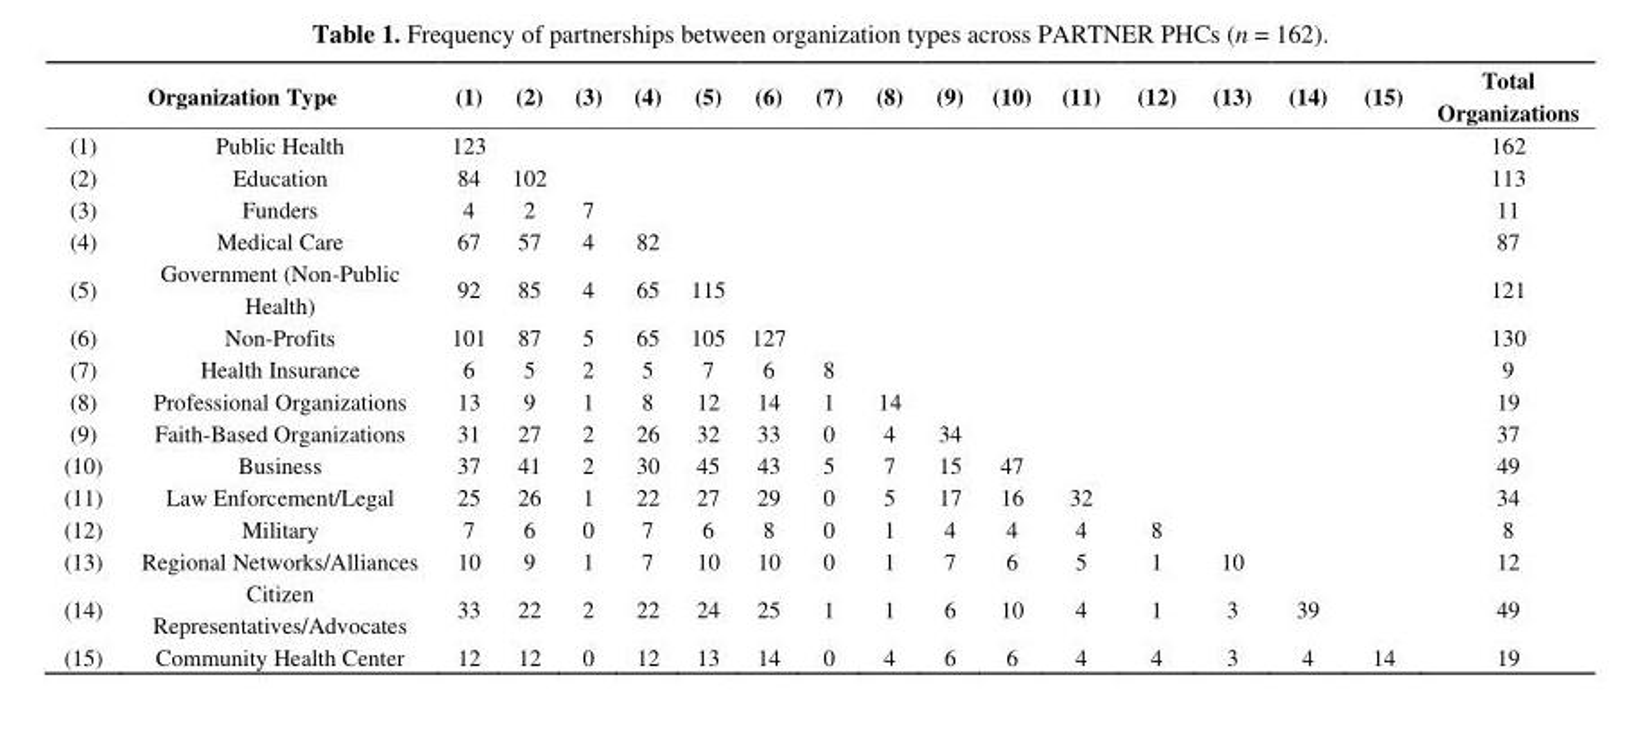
<table><thead><tr><td colspan="2">Organization Type</td><td rowspan="2">(1) 123</td><td rowspan="2">(2)</td><td rowspan="2">(3)</td><td rowspan="2">(4)</td><td rowspan="2">(5)</td><td rowspan="2">(6)</td><td rowspan="2">(7)</td><td rowspan="2">(8)</td><td rowspan="2">(9)</td><td rowspan="2">(10)</td><td rowspan="2">(11)</td><td rowspan="2">(12)</td><td rowspan="2">(13)</td><td rowspan="2">(14)</td><td rowspan="2">(15)</td><td rowspan="2">Total Organizations 162</td></tr><tr><td>(1)</td><td>Public Health</td></tr></thead><tbody><tr><td>(2)</td><td>Education</td><td>84</td><td>102</td><td></td><td></td><td></td><td></td><td></td><td></td><td></td><td></td><td></td><td></td><td></td><td></td><td></td><td>113</td></tr><tr><td>(3)</td><td>Funders</td><td>4</td><td>2</td><td>7</td><td></td><td></td><td></td><td></td><td></td><td></td><td></td><td></td><td></td><td></td><td></td><td></td><td>11</td></tr><tr><td>(4)</td><td>Medical Care</td><td>67</td><td>57</td><td>4</td><td>82</td><td></td><td></td><td></td><td></td><td></td><td></td><td></td><td></td><td></td><td></td><td></td><td>87</td></tr><tr><td>(5)</td><td>Government (Non-Public Health)</td><td>92</td><td>85</td><td>4</td><td>65</td><td>115</td><td></td><td></td><td></td><td></td><td></td><td></td><td></td><td></td><td></td><td></td><td>121</td></tr><tr><td>(6)</td><td>Non-Profits</td><td>101</td><td>87</td><td>5</td><td>65</td><td>105</td><td>127</td><td></td><td></td><td></td><td></td><td></td><td></td><td></td><td></td><td></td><td>130</td></tr><tr><td>(7)</td><td>Health Insurance</td><td>6</td><td>5</td><td>2</td><td>5</td><td>7</td><td>6</td><td>8</td><td></td><td></td><td></td><td></td><td></td><td></td><td></td><td></td><td>9</td></tr><tr><td>(8)</td><td>Professional Organizations</td><td>13</td><td>9</td><td>1</td><td>8</td><td>12</td><td>14</td><td>1</td><td>14</td><td></td><td></td><td></td><td></td><td></td><td></td><td></td><td>19</td></tr><tr><td>(9)</td><td>Faith-Based Organizations</td><td>31</td><td>27</td><td>2</td><td>26</td><td>32</td><td>33</td><td>0</td><td>4</td><td>34</td><td></td><td></td><td></td><td></td><td></td><td></td><td>37</td></tr><tr><td>(10)</td><td>Business</td><td>37</td><td>41</td><td>2</td><td>30</td><td>45</td><td>43</td><td>5</td><td>7</td><td>15</td><td>47</td><td></td><td></td><td></td><td></td><td></td><td>49</td></tr><tr><td>(11)</td><td>Law Enforcement/Legal</td><td>25</td><td>26</td><td>1</td><td>22</td><td>27</td><td>29</td><td>0</td><td>5</td><td>17</td><td>16</td><td>32</td><td></td><td></td><td></td><td></td><td>34</td></tr><tr><td>(12)</td><td>Military</td><td>7</td><td>6</td><td>0</td><td>7</td><td>6</td><td>8</td><td>0</td><td>1</td><td>4</td><td>4</td><td>4</td><td>8</td><td></td><td></td><td></td><td>8</td></tr><tr><td>(13)</td><td>Regional Networks/Alliances</td><td>10</td><td>9</td><td>1</td><td>7</td><td>10</td><td>10</td><td>0</td><td>1</td><td>7</td><td>6</td><td>5</td><td>1</td><td>10</td><td></td><td></td><td>12</td></tr><tr><td>(14)</td><td>Citizen Representatives/Advocates</td><td>33</td><td>22</td><td>2</td><td>22</td><td>24</td><td>25</td><td>1</td><td>1</td><td>6</td><td>10</td><td>4</td><td>1</td><td>3</td><td>39</td><td></td><td>49</td></tr><tr><td>(15)</td><td>Community Health Center</td><td>12</td><td>12</td><td>0</td><td>12</td><td>13</td><td>14</td><td>0</td><td>4</td><td>6</td><td>6</td><td>4</td><td>4</td><td>3</td><td>4</td><td>14</td><td>19</td></tr></tbody></table>